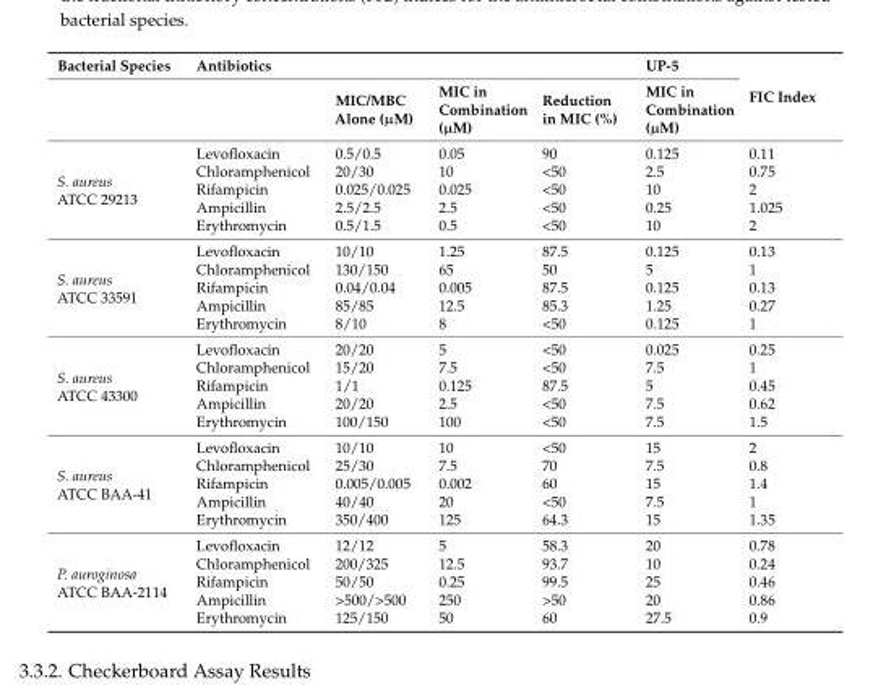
<table><thead><tr><td rowspan="2">Bacterial Species</td><td colspan="4">Antibiotics</td><td rowspan="2">UP-5 MIC in Combination (µM)</td><td rowspan="2">FIC Index</td></tr><tr><td></td><td>MIC/MBC Alone (µM)</td><td>MIC in Combination (µM)</td><td>Reduction in MIC (%)</td></tr></thead><tbody><tr><td rowspan="5">S. aureus ATCC 29213</td><td>Levofloxacin</td><td>0.5/0.5</td><td>0.05</td><td>90</td><td>0.125</td><td>0.11</td></tr><tr><td>Chloramphenicol</td><td>20/30</td><td>10</td><td>&lt;50</td><td>2.5</td><td>0.75</td></tr><tr><td>Rifampicin</td><td>0.025/0.025</td><td>0.025</td><td>&lt;50</td><td>10</td><td>2</td></tr><tr><td>Ampicillin</td><td>2.5/2.5</td><td>2.5</td><td>&lt;50</td><td>0.25</td><td>1.025</td></tr><tr><td>Erythromycin</td><td>0.5/1.5</td><td>0.5</td><td>&lt;50</td><td>10</td><td>2</td></tr><tr><td rowspan="5">S. aureus ATCC 33591</td><td>Levofloxacin</td><td>10/10</td><td>1.25</td><td>87.5</td><td>0.125</td><td>0.13</td></tr><tr><td>Chloramphenicol</td><td>130/150</td><td>65</td><td>50</td><td>5</td><td>1</td></tr><tr><td>Rifampicin</td><td>0.04/0.04</td><td>0.005</td><td>87.5</td><td>0.125</td><td>0.13</td></tr><tr><td>Ampicillin</td><td>85/85</td><td>12.5</td><td>85.3</td><td>1.25</td><td>0.27</td></tr><tr><td>Erythromycin</td><td>8/10</td><td>8</td><td>&lt;50</td><td>0.125</td><td>1</td></tr><tr><td rowspan="5">S. aureus ATCC 43300</td><td>Levofloxacin</td><td>20/20</td><td>5</td><td>&lt;50</td><td>0.025</td><td>0.25</td></tr><tr><td>Chloramphenicol</td><td>15/20</td><td>7.5</td><td>&lt;50</td><td>7.5</td><td>1</td></tr><tr><td>Rifampicin</td><td>1/1</td><td>0.125</td><td>87.5</td><td>5</td><td>0.45</td></tr><tr><td>Ampicillin</td><td>20/20</td><td>2.5</td><td>&lt;50</td><td>7.5</td><td>0.62</td></tr><tr><td>Erythromycin</td><td>100/150</td><td>100</td><td>&lt;50</td><td>7.5</td><td>1.5</td></tr><tr><td rowspan="5">S. aureus ATCC BAA-41</td><td>Levofloxacin</td><td>10/10</td><td>10</td><td>&lt;50</td><td>15</td><td>2</td></tr><tr><td>Chloramphenicol</td><td>25/30</td><td>7.5</td><td>70</td><td>7.5</td><td>0.8</td></tr><tr><td>Rifampicin</td><td>0.005/0.005</td><td>0.002</td><td>60</td><td>15</td><td>1.4</td></tr><tr><td>Ampicillin</td><td>40/40</td><td>20</td><td>&lt;50</td><td>7.5</td><td>1</td></tr><tr><td>Erythromycin</td><td>350/400</td><td>125</td><td>64.3</td><td>15</td><td>1.35</td></tr><tr><td rowspan="5">P. auroginosa ATCC BAA-2114</td><td>Levofloxacin</td><td>12/12</td><td>5</td><td>58.3</td><td>20</td><td>0.78</td></tr><tr><td>Chloramphenicol</td><td>200/325</td><td>12.5</td><td>93.7</td><td>10</td><td>0.24</td></tr><tr><td>Rifampicin</td><td>50/50</td><td>0.25</td><td>99.5</td><td>25</td><td>0.46</td></tr><tr><td>Ampicillin</td><td>&gt;500/&gt;500</td><td>250</td><td>&gt;50</td><td>20</td><td>0.86</td></tr><tr><td>Erythromycin</td><td>125/150</td><td>50</td><td>60</td><td>27.5</td><td>0.9</td></tr></tbody></table>